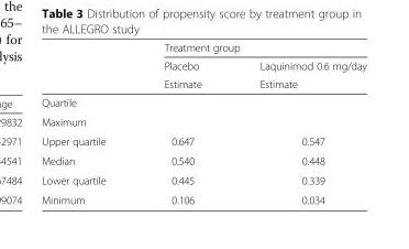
<table><thead><tr><td rowspan="3"></td><td colspan="2">Treatment group</td></tr><tr><td rowspan="2">Placebo Estimate</td><td rowspan="2">Laquinimod 0.6 mg/day Estimate</td></tr><tr></tr></thead><tbody><tr><td>Quartile</td><td rowspan="2"></td><td rowspan="2"></td></tr><tr><td>Maximum</td></tr><tr><td>Upper quartile</td><td>0.647</td><td>0.547</td></tr><tr><td>Median</td><td>0.540</td><td>0.448</td></tr><tr><td>Lower quartile</td><td>0.445</td><td>0.339</td></tr><tr><td>Minimum</td><td>0.106</td><td>0.034</td></tr></tbody></table>